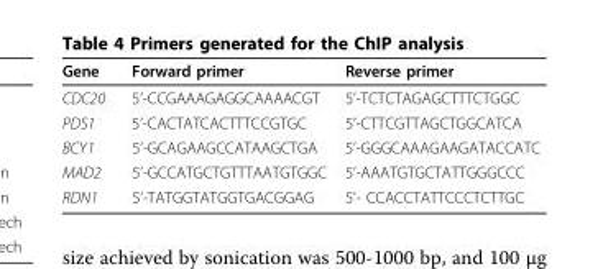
<table><thead><tr><td>Gene</td><td>Forward primer</td><td>Reverse primer</td></tr></thead><tbody><tr><td>CDC20</td><td>5’-CCGAAAGAGGCAAAACGT</td><td>5’-TCTCTAGAGCTTTCTGGC</td></tr><tr><td>PDS1</td><td>5’-CACTATCACTTTCCGTGC</td><td>5’-CTTCGTTAGCTGGCATCA</td></tr><tr><td>BCY1</td><td>5’-GCAGAAGCCATAAGCTGA</td><td>5’-GGGCAAAGAAGATACCATC</td></tr><tr><td>MAD2</td><td>5’-GCCATGCTGTTTAATGTGGC</td><td>5’-AAATGTGCTATTGGGCCC</td></tr><tr><td>RDN1</td><td>5’-TATGGTATGGTGACGGAG</td><td>5’- CCACCTATTCCCTCTTGC</td></tr></tbody></table>